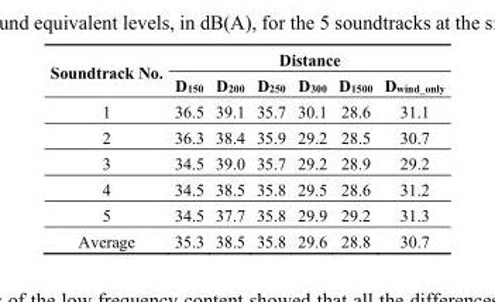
<table><thead><tr><td rowspan="2">Soundtrack No.</td><td colspan="6">Distance</td></tr><tr><td>D<sub>150</sub></td><td>D<sub>200</sub></td><td>D<sub>250</sub></td><td>D<sub>300</sub></td><td>D<sub>1500</sub></td><td>D<sub>wind_only</sub></td></tr></thead><tbody><tr><td>1</td><td>36.5</td><td>39.1</td><td>35.7</td><td>30.1</td><td>28.6</td><td>31.1</td></tr><tr><td>2</td><td>36.3</td><td>38.4</td><td>35.9</td><td>29.2</td><td>28.5</td><td>30.7</td></tr><tr><td>3</td><td>34.5</td><td>39.0</td><td>35.7</td><td>29.2</td><td>28.9</td><td>29.2</td></tr><tr><td>4</td><td>34.5</td><td>38.5</td><td>35.8</td><td>29.5</td><td>28.6</td><td>31.2</td></tr><tr><td>5</td><td>34.5</td><td>37.7</td><td>35.8</td><td>29.9</td><td>29.2</td><td>31.3</td></tr><tr><td>Average</td><td>35.3</td><td>38.5</td><td>35.8</td><td>29.6</td><td>28.8</td><td>30.7</td></tr></tbody></table>